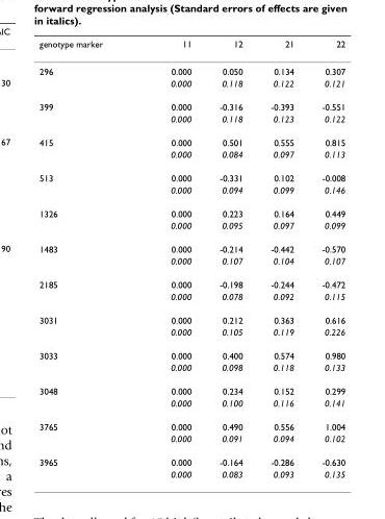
<table><thead><tr><td>genotype marker</td><td>11</td><td>12</td><td>21</td><td>22</td></tr></thead><tbody><tr><td rowspan="2">296</td><td>0.000</td><td>0.050</td><td>0.134</td><td>0.307</td></tr><tr><td>0.000</td><td>0.118</td><td>0.122</td><td>0.121</td></tr><tr><td rowspan="2">399</td><td>0.000</td><td>-0.316</td><td>-0.393</td><td>-0.551</td></tr><tr><td>0.000</td><td>0.118</td><td>0.123</td><td>0.122</td></tr><tr><td rowspan="2">415</td><td>0.000</td><td>0.501</td><td>0.555</td><td>0.815</td></tr><tr><td>0.000</td><td>0.084</td><td>0.097</td><td>0.113</td></tr><tr><td rowspan="2">513</td><td>0.000</td><td>-0.331</td><td>0.102</td><td>-0.008</td></tr><tr><td>0.000</td><td>0.094</td><td>0.099</td><td>0.146</td></tr><tr><td rowspan="2">1326</td><td>0.000</td><td>0.223</td><td>0.164</td><td>0.449</td></tr><tr><td>0.000</td><td>0.095</td><td>0.097</td><td>0.099</td></tr><tr><td rowspan="2">1483</td><td>0.000</td><td>-0.214</td><td>-0.442</td><td>-0.570</td></tr><tr><td>0.000</td><td>0.107</td><td>0.104</td><td>0.107</td></tr><tr><td rowspan="2">2185</td><td>0.000</td><td>-0.198</td><td>-0.244</td><td>-0.472</td></tr><tr><td>0.000</td><td>0.078</td><td>0.092</td><td>0.115</td></tr><tr><td rowspan="2">3031</td><td>0.000</td><td>0.212</td><td>0.363</td><td>0.616</td></tr><tr><td>0.000</td><td>0.105</td><td>0.119</td><td>0.226</td></tr><tr><td rowspan="2">3033</td><td>0.000</td><td>0.400</td><td>0.574</td><td>0.980</td></tr><tr><td>0.000</td><td>0.098</td><td>0.118</td><td>0.133</td></tr><tr><td rowspan="2">3048</td><td>0.000</td><td>0.234</td><td>0.152</td><td>0.299</td></tr><tr><td>0.000</td><td>0.100</td><td>0.116</td><td>0.141</td></tr><tr><td rowspan="2">3765</td><td>0.000</td><td>0.490</td><td>0.556</td><td>1.004</td></tr><tr><td>0.000</td><td>0.091</td><td>0.094</td><td>0.102</td></tr><tr><td rowspan="2">3965</td><td>0.000</td><td>-0.164</td><td>-0.286</td><td>-0.630</td></tr><tr><td>0.000</td><td>0.083</td><td>0.093</td><td>0.135</td></tr></tbody></table>